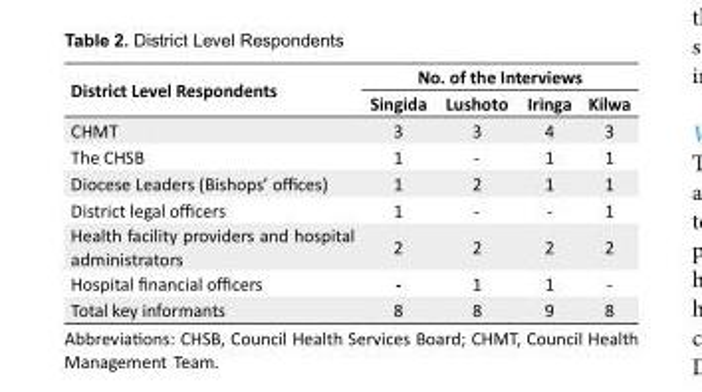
<table><tbody><tr><td rowspan="2">District Level Respondents</td><td colspan="4">No. of the Interviews</td></tr><tr><td>Singida</td><td>Lushoto</td><td>Iringa</td><td>Kilwa</td></tr><tr><td>CHMT</td><td>3</td><td>3</td><td>4</td><td>3</td></tr><tr><td>The CHSB</td><td>1</td><td>-</td><td>1</td><td>1</td></tr><tr><td>Diocese Leaders (Bishops’ offices)</td><td>1</td><td>2</td><td>1</td><td>1</td></tr><tr><td>District legal officers</td><td>1</td><td>-</td><td>-</td><td>1</td></tr><tr><td>Health facility providers and hospital administrators</td><td>2</td><td>2</td><td>2</td><td>2</td></tr><tr><td>Hospital financial officers</td><td>-</td><td>1</td><td>1</td><td>-</td></tr><tr><td>Total key informants</td><td>8</td><td>8</td><td>9</td><td>8</td></tr></tbody></table>